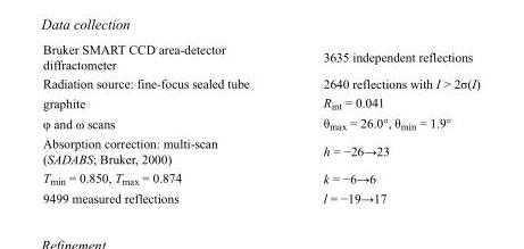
<table><tbody><tr><td>Bruker SMART CCD area-detector diffractometer</td><td>3635 independent reflections</td></tr><tr><td>Radiation source: fine-focus sealed tube</td><td>2640 reflections with I &gt; 2σ(I)</td></tr><tr><td>graphite</td><td>R<sub>int</sub> = 0.041</td></tr><tr><td>φ and ω scans</td><td>θ<sub>max</sub> = 26.0°, θ<sub>min</sub> = 1.9°</td></tr><tr><td>Absorption correction: multi-scan (SADABS; Bruker, 2000)</td><td>h = −26→23</td></tr><tr><td>T<sub>min</sub> = 0.850, T<sub>max</sub> = 0.874</td><td>k = −6→6</td></tr><tr><td>9499 measured reflections</td><td>l = −19→17</td></tr></tbody></table>